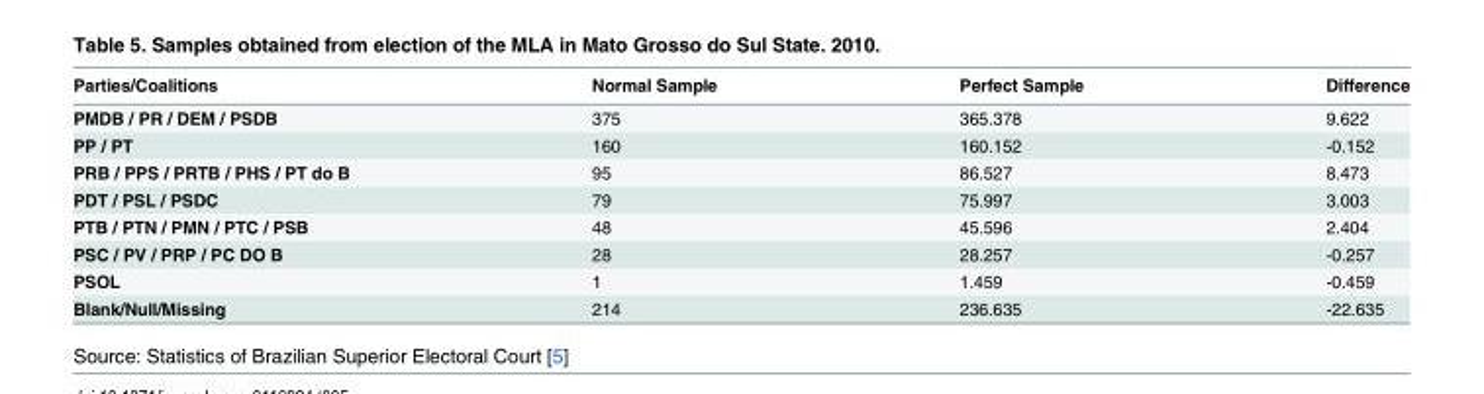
<table><thead><tr><td>Parties/Coalitions</td><td>Normal Sample</td><td>Perfect Sample</td><td>Difference</td></tr></thead><tbody><tr><td>PMDB / PR / DEM / PSDB</td><td>375</td><td>365.378</td><td>9.622</td></tr><tr><td>PP / PT</td><td>160</td><td>160.152</td><td>-0.152</td></tr><tr><td>PRB / PPS / PRTB / PHS / PT do B</td><td>95</td><td>86.527</td><td>8.473</td></tr><tr><td>PDT / PSL / PSDC</td><td>79</td><td>75.997</td><td>3.003</td></tr><tr><td>PTB / PTN / PMN / PTC / PSB</td><td>48</td><td>45.596</td><td>2.404</td></tr><tr><td>PSC / PV / PRP / PC DO B</td><td>28</td><td>28.257</td><td>-0.257</td></tr><tr><td>PSOL</td><td>1</td><td>1.459</td><td>-0.459</td></tr><tr><td>Blank/Null/Missing</td><td>214</td><td>236.635</td><td>-22.635</td></tr></tbody></table>